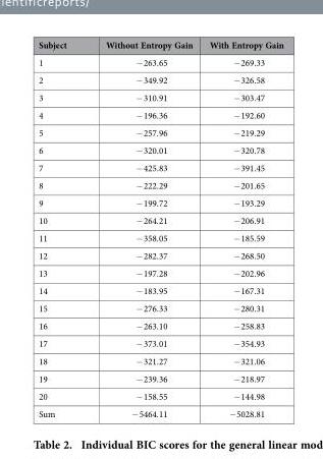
<table><thead><tr><td>Subject</td><td>Without Entropy Gain</td><td>With Entropy Gain</td></tr></thead><tbody><tr><td>1</td><td>− 263.65</td><td>− 269.33</td></tr><tr><td>2</td><td>− 349.92</td><td>− 326.58</td></tr><tr><td>3</td><td>− 310.91</td><td>− 303.47</td></tr><tr><td>4</td><td>− 196.36</td><td>− 192.60</td></tr><tr><td>5</td><td>− 257.96</td><td>− 219.29</td></tr><tr><td>6</td><td>− 320.01</td><td>− 320.78</td></tr><tr><td>7</td><td>− 425.83</td><td>− 391.45</td></tr><tr><td>8</td><td>− 222.29</td><td>− 201.65</td></tr><tr><td>9</td><td>− 199.72</td><td>− 193.29</td></tr><tr><td>10</td><td>− 264.21</td><td>− 206.91</td></tr><tr><td>11</td><td>− 358.05</td><td>− 185.59</td></tr><tr><td>12</td><td>− 282.37</td><td>− 268.50</td></tr><tr><td>13</td><td>− 197.28</td><td>− 202.96</td></tr><tr><td>14</td><td>− 183.95</td><td>− 167.31</td></tr><tr><td>15</td><td>− 276.33</td><td>− 280.31</td></tr><tr><td>16</td><td>− 263.10</td><td>− 258.83</td></tr><tr><td>17</td><td>− 373.01</td><td>− 354.93</td></tr><tr><td>18</td><td>− 321.27</td><td>− 321.06</td></tr><tr><td>19</td><td>− 239.36</td><td>− 218.97</td></tr><tr><td>20</td><td>− 158.55</td><td>− 144.98</td></tr><tr><td>Sum</td><td>− 5464.11</td><td>− 5028.81</td></tr></tbody></table>